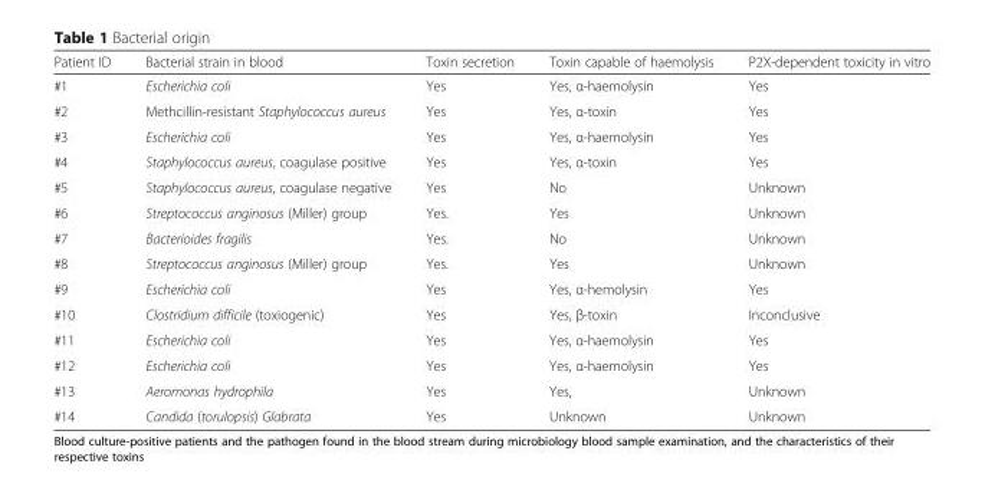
<table><thead><tr><td>Patient ID</td><td>Bacterial strain in blood</td><td>Toxin secretion</td><td>Toxin capable of haemolysis</td><td>P2X-dependent toxicity in vitro</td></tr></thead><tbody><tr><td>#1</td><td>Escherichia coli</td><td>Yes</td><td>Yes, α-haemolysin</td><td>Yes</td></tr><tr><td>#2</td><td>Methcillin-resistant Staphylococcus aureus</td><td>Yes</td><td>Yes, α-toxin</td><td>Yes</td></tr><tr><td>#3</td><td>Escherichia coli</td><td>Yes</td><td>Yes, α-haemolysin</td><td>Yes</td></tr><tr><td>#4</td><td>Staphylococcus aureus, coagulase positive</td><td>Yes</td><td>Yes, α-toxin</td><td>Yes</td></tr><tr><td>#5</td><td>Staphylococcus aureus, coagulase negative</td><td>Yes</td><td>No</td><td>Unknown</td></tr><tr><td>#6</td><td>Streptococcus anginosus (Miller) group</td><td>Yes.</td><td>Yes</td><td>Unknown</td></tr><tr><td>#7</td><td>Bacterioides fragilis</td><td>Yes.</td><td>No</td><td>Unknown</td></tr><tr><td>#8</td><td>Streptococcus anginosus (Miller) group</td><td>Yes.</td><td>Yes</td><td>Unknown</td></tr><tr><td>#9</td><td>Escherichia coli</td><td>Yes</td><td>Yes, α-hemolysin</td><td>Yes</td></tr><tr><td>#10</td><td>Clostridium difficile (toxiogenic)</td><td>Yes</td><td>Yes, β-toxin</td><td>Inconclusive</td></tr><tr><td>#11</td><td>Escherichia coli</td><td>Yes</td><td>Yes, α-haemolysin</td><td>Yes</td></tr><tr><td>#12</td><td>Escherichia coli</td><td>Yes</td><td>Yes, α-haemolysin</td><td>Yes</td></tr><tr><td>#13</td><td>Aeromonas hydrophila</td><td>Yes</td><td>Yes,</td><td>Unknown</td></tr><tr><td>#14</td><td>Candida (torulopsis) Glabrata</td><td>Yes</td><td>Unknown</td><td>Unknown</td></tr></tbody></table>